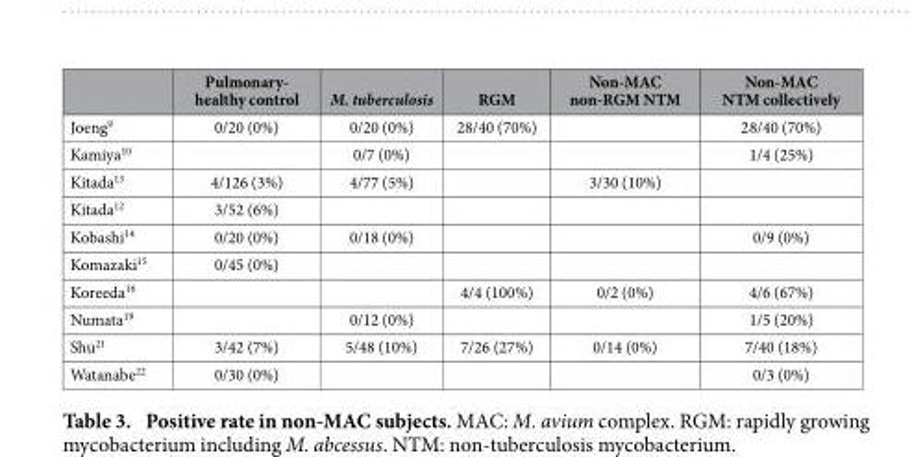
<table><thead><tr><td></td><td>Pulmonary- healthy control</td><td>M. tuberculosis</td><td>RGM</td><td>Non-MAC non-RGM NTM</td><td>Non-MAC NTM collectively</td></tr></thead><tbody><tr><td>Joeng<sup>9</sup></td><td>0/20 (0%)</td><td>0/20 (0%)</td><td>28/40 (70%)</td><td></td><td>28/40 (70%)</td></tr><tr><td>Kamiya<sup>10</sup></td><td></td><td>0/7 (0%)</td><td></td><td></td><td>1/4 (25%)</td></tr><tr><td>Kitada<sup>13</sup></td><td>4/126 (3%)</td><td>4/77 (5%)</td><td></td><td>3/30 (10%)</td><td></td></tr><tr><td>Kitada<sup>12</sup></td><td>3/52 (6%)</td><td></td><td></td><td></td><td></td></tr><tr><td>Kobashi<sup>14</sup></td><td>0/20 (0%)</td><td>0/18 (0%)</td><td></td><td></td><td>0/9 (0%)</td></tr><tr><td>Komazaki<sup>15</sup></td><td>0/45 (0%)</td><td></td><td></td><td></td><td></td></tr><tr><td>Koreeda<sup>16</sup></td><td></td><td></td><td>4/4 (100%)</td><td>0/2 (0%)</td><td>4/6 (67%)</td></tr><tr><td>Numata<sup>19</sup></td><td></td><td>0/12 (0%)</td><td></td><td></td><td>1/5 (20%)</td></tr><tr><td>Shu<sup>21</sup></td><td>3/42 (7%)</td><td>5/48 (10%)</td><td>7/26 (27%)</td><td>0/14 (0%)</td><td>7/40 (18%)</td></tr><tr><td>Watanabe<sup>22</sup></td><td>0/30 (0%)</td><td></td><td></td><td></td><td>0/3 (0%)</td></tr></tbody></table>